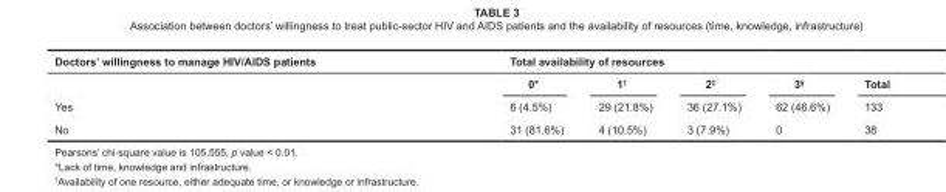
<table><thead><tr><td rowspan="2">Doctors’ willingness to manage HIV/AIDS patients</td><td colspan="5">Total availability of resources</td></tr><tr><td>0*</td><td>1†</td><td>2‡</td><td>3§</td><td>Total</td></tr></thead><tbody><tr><td>Yes</td><td>6 (4.5%)</td><td>29 (21.8%)</td><td>36 (27.1%)</td><td>62 (46.6%)</td><td>133</td></tr><tr><td>No</td><td>31 (81.6%)</td><td>4 (10.5%)</td><td>3 (7.9%)</td><td>0</td><td>38</td></tr></tbody></table>